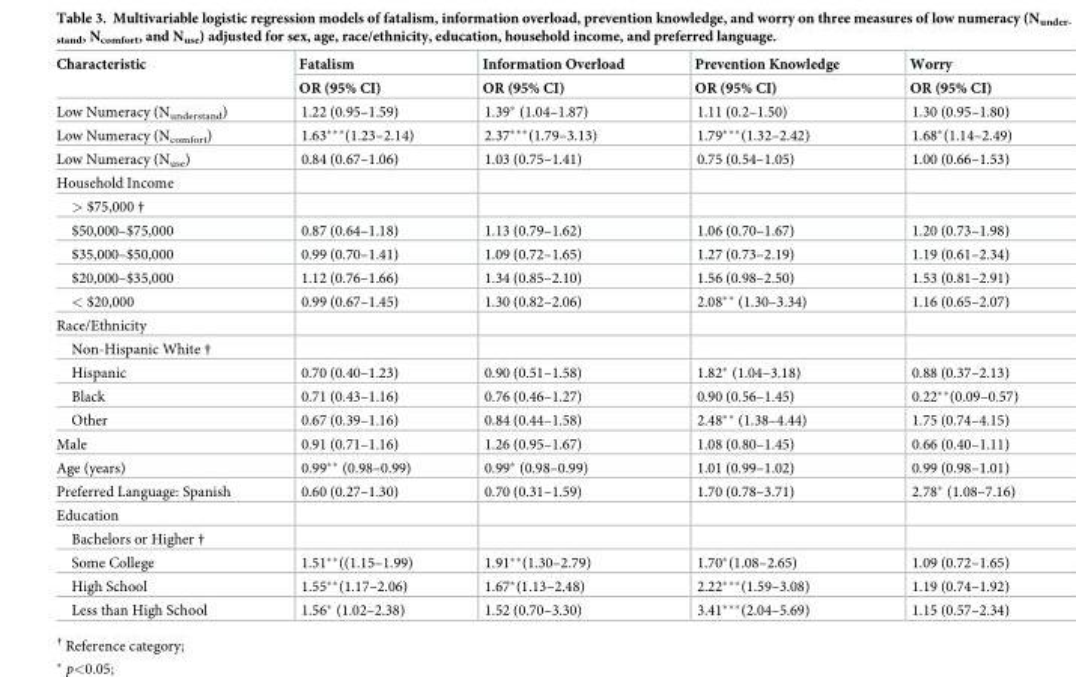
<table><thead><tr><td rowspan="2">Characteristic</td><td rowspan="2">Fatalism OR (95% CI)</td><td rowspan="2">Information Overload OR (95% CI)</td><td rowspan="2">Prevention Knowledge OR (95% CI)</td><td rowspan="2">Worry OR (95% CI)</td></tr><tr></tr></thead><tbody><tr><td>Low Numeracy (N<sub>understand</sub>)</td><td>1.22 (0.95–1.59)</td><td>1.39* (1.04–1.87)</td><td>1.11 (0.2–1.50)</td><td>1.30 (0.95–1.80)</td></tr><tr><td>Low Numeracy (N<sub>comfort</sub>)</td><td>1.63***(1.23–2.14)</td><td>2.37***(1.79–3.13)</td><td>1.79***(1.32–2.42)</td><td>1.68*(1.14–2.49)</td></tr><tr><td>Low Numeracy (N<sub>use</sub>)</td><td>0.84 (0.67–1.06)</td><td>1.03 (0.75–1.41)</td><td>0.75 (0.54–1.05)</td><td>1.00 (0.66–1.53)</td></tr><tr><td colspan="5">Household Income</td></tr><tr><td colspan="5">&gt; $75,000 †</td></tr><tr><td>$50,000–$75,000</td><td>0.87 (0.64–1.18)</td><td>1.13 (0.79–1.62)</td><td>1.06 (0.70–1.67)</td><td>1.20 (0.73–1.98)</td></tr><tr><td>$35,000–$50,000</td><td>0.99 (0.70–1.41)</td><td>1.09 (0.72–1.65)</td><td>1.27 (0.73–2.19)</td><td>1.19 (0.61–2.34)</td></tr><tr><td>$20,000–$35,000</td><td>1.12 (0.76–1.66)</td><td>1.34 (0.85–2.10)</td><td>1.56 (0.98–2.50)</td><td>1.53 (0.81–2.91)</td></tr><tr><td>&lt; $20,000</td><td>0.99 (0.67–1.45)</td><td>1.30 (0.82–2.06)</td><td>2.08** (1.30–3.34)</td><td>1.16 (0.65–2.07)</td></tr><tr><td colspan="5">Race/Ethnicity</td></tr><tr><td colspan="5">Non-Hispanic White †</td></tr><tr><td>Hispanic</td><td>0.70 (0.40–1.23)</td><td>0.90 (0.51–1.58)</td><td>1.82* (1.04–3.18)</td><td>0.88 (0.37–2.13)</td></tr><tr><td>Black</td><td>0.71 (0.43–1.16)</td><td>0.76 (0.46–1.27)</td><td>0.90 (0.56–1.45)</td><td>0.22**(0.09–0.57)</td></tr><tr><td>Other</td><td>0.67 (0.39–1.16)</td><td>0.84 (0.44–1.58)</td><td>2.48** (1.38–4.44)</td><td>1.75 (0.74–4.15)</td></tr><tr><td>Male</td><td>0.91 (0.71–1.16)</td><td>1.26 (0.95–1.67)</td><td>1.08 (0.80–1.45)</td><td>0.66 (0.40–1.11)</td></tr><tr><td>Age (years)</td><td>0.99** (0.98–0.99)</td><td>0.99* (0.98–0.99)</td><td>1.01 (0.99–1.02)</td><td>0.99 (0.98–1.01)</td></tr><tr><td>Preferred Language: Spanish</td><td>0.60 (0.27–1.30)</td><td>0.70 (0.31–1.59)</td><td>1.70 (0.78–3.71)</td><td>2.78* (1.08–7.16)</td></tr><tr><td colspan="5">Education</td></tr><tr><td colspan="5">Bachelors or Higher †</td></tr><tr><td>Some College</td><td>1.51**((1.15–1.99)</td><td>1.91**(1.30–2.79)</td><td>1.70*(1.08–2.65)</td><td>1.09 (0.72–1.65)</td></tr><tr><td>High School</td><td>1.55**(1.17–2.06)</td><td>1.67*(1.13–2.48)</td><td>2.22***(1.59–3.08)</td><td>1.19 (0.74–1.92)</td></tr><tr><td>Less than High School</td><td>1.56* (1.02–2.38)</td><td>1.52 (0.70–3.30)</td><td>3.41***(2.04–5.69)</td><td>1.15 (0.57–2.34)</td></tr></tbody></table>